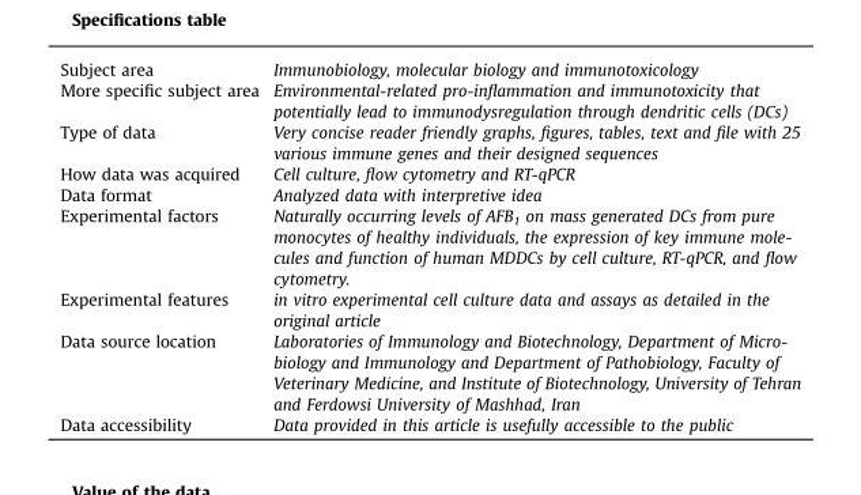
<table><tbody><tr><td>Subject area</td><td>Immunobiology, molecular biology and immunotoxicology</td></tr><tr><td>More specific subject area</td><td>Environmental-related pro-inflammation and immunotoxicity that potentially lead to immunodysregulation through dendritic cells (DCs)</td></tr><tr><td>Type of data</td><td>Very concise reader friendly graphs, figures, tables, text and file with 25 various immune genes and their designed sequences</td></tr><tr><td>How data was acquired</td><td>Cell culture, flow cytometry and RT-qPCR</td></tr><tr><td>Data format</td><td>Analyzed data with interpretive idea</td></tr><tr><td>Experimental factors</td><td>Naturally occurring levels of AFB1 on mass generated DCs from pure monocytes of healthy individuals, the expression of key immune mole- cules and function of human MDDCs by cell culture, RT-qPCR, and flow cytometry.</td></tr><tr><td>Experimental features</td><td>in vitro experimental cell culture data and assays as detailed in the original article</td></tr><tr><td>Data source location</td><td>Laboratories of Immunology and Biotechnology, Department of Micro- biology and Immunology and Department of Pathobiology, Faculty of Veterinary Medicine, and Institute of Biotechnology, University of Tehran and Ferdowsi University of Mashhad, Iran</td></tr><tr><td>Data accessibility</td><td>Data provided in this article is usefully accessible to the public</td></tr></tbody></table>